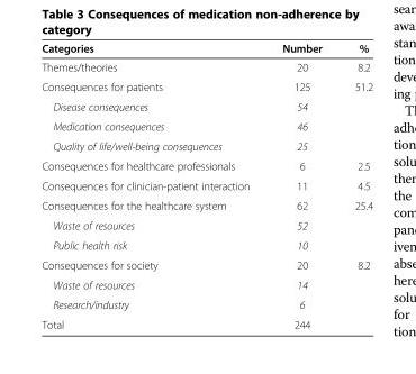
<table><thead><tr><td>Categories</td><td>Number</td><td>%</td></tr></thead><tbody><tr><td>Themes/theories</td><td>20</td><td>8.2</td></tr><tr><td>Consequences for patients</td><td>125</td><td>51.2</td></tr><tr><td>Disease consequences</td><td>54</td><td></td></tr><tr><td>Medication consequences</td><td>46</td><td></td></tr><tr><td>Quality of life/well-being consequences</td><td>25</td><td></td></tr><tr><td>Consequences for healthcare professionals</td><td>6</td><td>2.5</td></tr><tr><td>Consequences for clinician-patient interaction</td><td>11</td><td>4.5</td></tr><tr><td>Consequences for the healthcare system</td><td>62</td><td>25.4</td></tr><tr><td>Waste of resources</td><td>52</td><td></td></tr><tr><td>Public health risk</td><td>10</td><td></td></tr><tr><td>Consequences for society</td><td>20</td><td>8.2</td></tr><tr><td>Waste of resources</td><td>14</td><td></td></tr><tr><td>Research/industry</td><td>6</td><td></td></tr><tr><td>Total</td><td>244</td><td></td></tr></tbody></table>